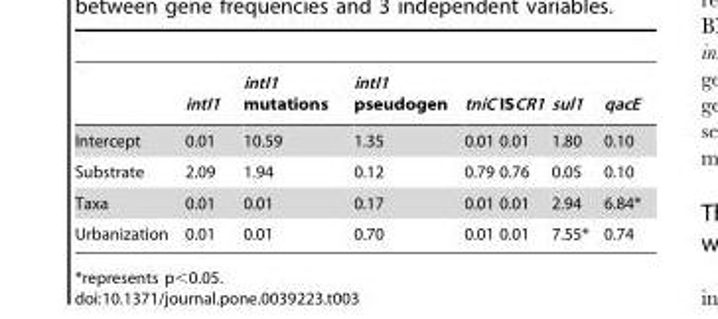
<table><thead><tr><td></td><td>intI1</td><td>intI1 mutations</td><td>intI1 pseudogen</td><td>tniC</td><td>ISCR1</td><td>sul1</td><td>qacE</td></tr></thead><tbody><tr><td>Intercept</td><td>0.01</td><td>10.59</td><td>1.35</td><td>0.01</td><td>0.01</td><td>1.80</td><td>0.10</td></tr><tr><td>Substrate</td><td>2.09</td><td>1.94</td><td>0.12</td><td>0.79</td><td>0.76</td><td>0.05</td><td>0.10</td></tr><tr><td>Taxa</td><td>0.01</td><td>0.01</td><td>0.17</td><td>0.01</td><td>0.01</td><td>2.94</td><td>6.84*</td></tr><tr><td>Urbanization</td><td>0.01</td><td>0.01</td><td>0.70</td><td>0.01</td><td>0.01</td><td>7.55*</td><td>0.74</td></tr></tbody></table>